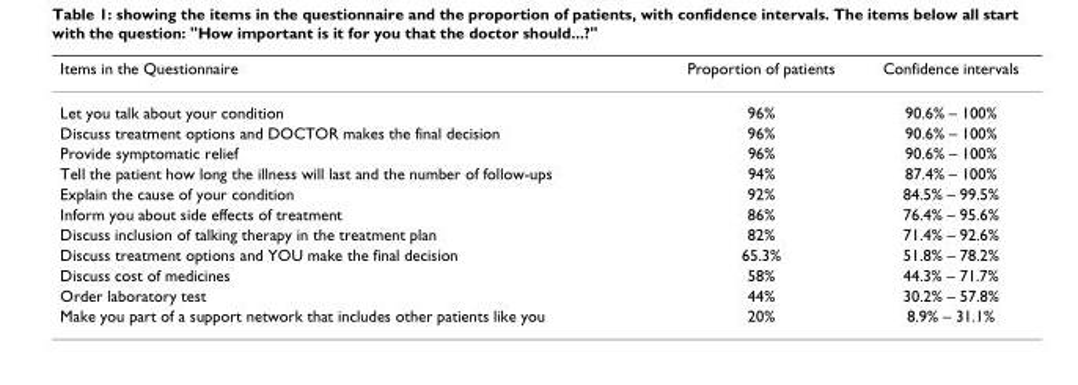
<table><thead><tr><td>Items in the Questionnaire</td><td>Proportion of patients</td><td>Confidence intervals</td></tr></thead><tbody><tr><td>Let you talk about your condition</td><td>96%</td><td>90.6% – 100%</td></tr><tr><td>Discuss treatment options and DOCTOR makes the final decision</td><td>96%</td><td>90.6% – 100%</td></tr><tr><td>Provide symptomatic relief</td><td>96%</td><td>90.6% – 100%</td></tr><tr><td>Tell the patient how long the illness will last and the number of follow-ups</td><td>94%</td><td>87.4% – 100%</td></tr><tr><td>Explain the cause of your condition</td><td>92%</td><td>84.5% – 99.5%</td></tr><tr><td>Inform you about side effects of treatment</td><td>86%</td><td>76.4% – 95.6%</td></tr><tr><td>Discuss inclusion of talking therapy in the treatment plan</td><td>82%</td><td>71.4% – 92.6%</td></tr><tr><td>Discuss treatment options and YOU make the final decision</td><td>65.3%</td><td>51.8% – 78.2%</td></tr><tr><td>Discuss cost of medicines</td><td>58%</td><td>44.3% – 71.7%</td></tr><tr><td>Order laboratory test</td><td>44%</td><td>30.2% – 57.8%</td></tr><tr><td>Make you part of a support network that includes other patients like you</td><td>20%</td><td>8.9% – 31.1%</td></tr></tbody></table>